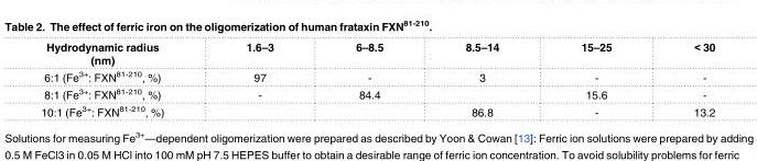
<table><thead><tr><td>Hydrodynamic radius (nm)</td><td>1.6–3</td><td>6–8.5</td><td>8.5–14</td><td>15–25</td><td>&lt; 30</td></tr></thead><tbody><tr><td>6:1 (Fe<sup>3+</sup>: FXN<sup>81-210</sup>, %)</td><td>97</td><td>-</td><td>3</td><td>-</td><td>-</td></tr><tr><td>8:1 (Fe<sup>3+</sup>: FXN<sup>81-210</sup>, %)</td><td>-</td><td>84.4</td><td></td><td>15.6</td><td>-</td></tr><tr><td>10:1 (Fe<sup>3+</sup>: FXN<sup>81-210</sup>, %)</td><td></td><td></td><td>86.8</td><td>-</td><td>13.2</td></tr></tbody></table>